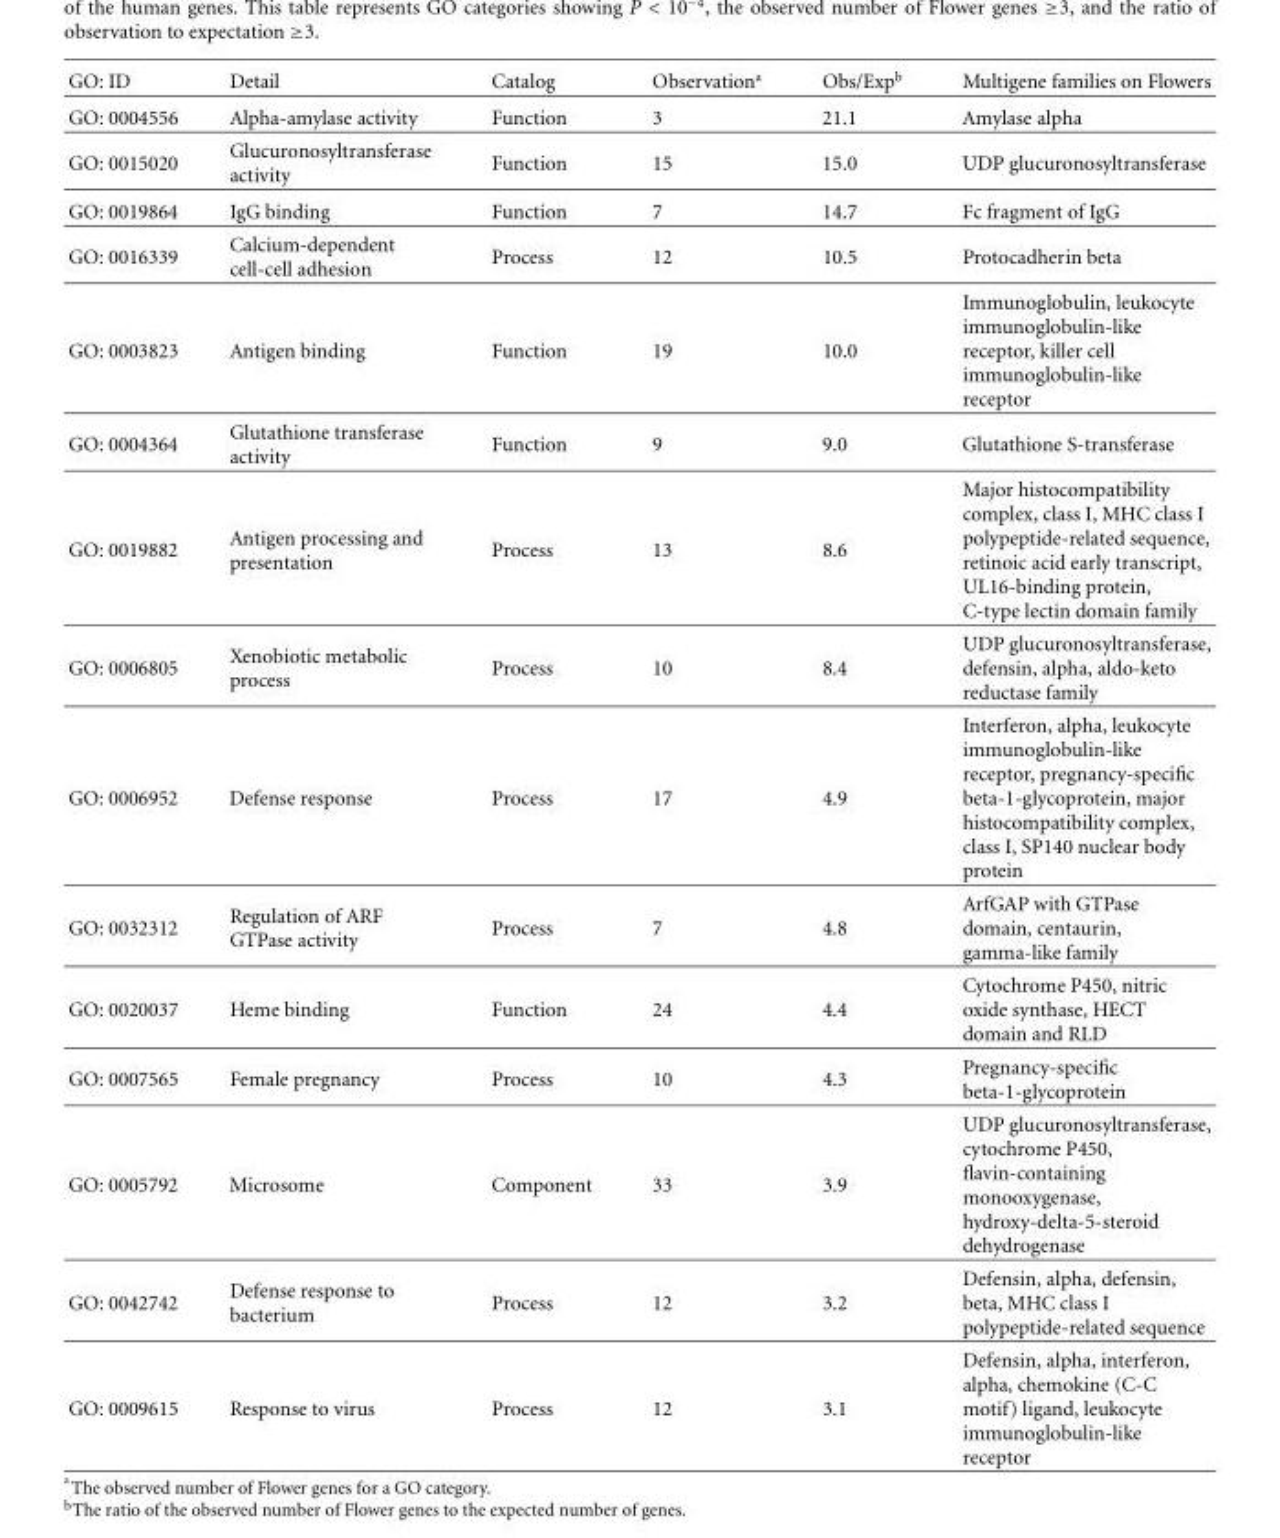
<table><thead><tr><td>GO: ID</td><td>Detail</td><td>Catalog</td><td>Observationa</td><td>Obs/Expb</td><td>Multigene families on Flowers</td></tr></thead><tbody><tr><td>GO: 0004556</td><td>Alpha-amylase activity</td><td>Function</td><td>3</td><td>21.1</td><td>Amylase alpha</td></tr><tr><td>GO: 0015020</td><td>Glucuronosyltransferase activity</td><td>Function</td><td>15</td><td>15.0</td><td>UDP glucuronosyltransferase</td></tr><tr><td>GO: 0019864</td><td>IgG binding</td><td>Function</td><td>7</td><td>14.7</td><td>Fc fragment of IgG</td></tr><tr><td>GO: 0016339</td><td>Calcium-dependent cell-cell adhesion</td><td>Process</td><td>12</td><td>10.5</td><td>Protocadherin beta</td></tr><tr><td>GO: 0003823</td><td>Antigen binding</td><td>Function</td><td>19</td><td>10.0</td><td>Immunoglobulin, leukocyte immunoglobulin-like receptor, killer cell immunoglobulin-like receptor</td></tr><tr><td>GO: 0004364</td><td>Glutathione transferase activity</td><td>Function</td><td>9</td><td>9.0</td><td>Glutathione S-transferase</td></tr><tr><td>GO: 0019882</td><td>Antigen processing and presentation</td><td>Process</td><td>13</td><td>8.6</td><td>Major histocompatibility complex, class I, MHC class I polypeptide-related sequence, retinoic acid early transcript, UL16-binding protein, C-type lectin domain family</td></tr><tr><td>GO: 0006805</td><td>Xenobiotic metabolic process</td><td>Process</td><td>10</td><td>8.4</td><td>UDP glucuronosyltransferase, defensin, alpha, aldo-keto reductase family</td></tr><tr><td>GO: 0006952</td><td>Defense response</td><td>Process</td><td>17</td><td>4.9</td><td>Interferon, alpha, leukocyte immunoglobulin-like receptor, pregnancy-specific beta-1-glycoprotein, major histocompatibility complex, class I, SP140 nuclear body protein</td></tr><tr><td>GO: 0032312</td><td>Regulation of ARF GTPase activity</td><td>Process</td><td>7</td><td>4.8</td><td>ArfGAP with GTPase domain, centaurin, gamma-like family</td></tr><tr><td>GO: 0020037</td><td>Heme binding</td><td>Function</td><td>24</td><td>4.4</td><td>Cytochrome P450, nitric oxide synthase, HECT domain and RLD</td></tr><tr><td>GO: 0007565</td><td>Female pregnancy</td><td>Process</td><td>10</td><td>4.3</td><td>Pregnancy-specific beta-1-glycoprotein</td></tr><tr><td>GO: 0005792</td><td>Microsome</td><td>Component</td><td>33</td><td>3.9</td><td>UDP glucuronosyltransferase, cytochrome P450, flavin-containing monooxygenase, hydroxy-delta-5-steroid dehydrogenase</td></tr><tr><td>GO: 0042742</td><td>Defense response to bacterium</td><td>Process</td><td>12</td><td>3.2</td><td>Defensin, alpha, defensin, beta, MHC class I polypeptide-related sequence</td></tr><tr><td>GO: 0009615</td><td>Response to virus</td><td>Process</td><td>12</td><td>3.1</td><td>Defensin, alpha, interferon, alpha, chemokine (C-C motif) ligand, leukocyte immunoglobulin-like receptor</td></tr></tbody></table>